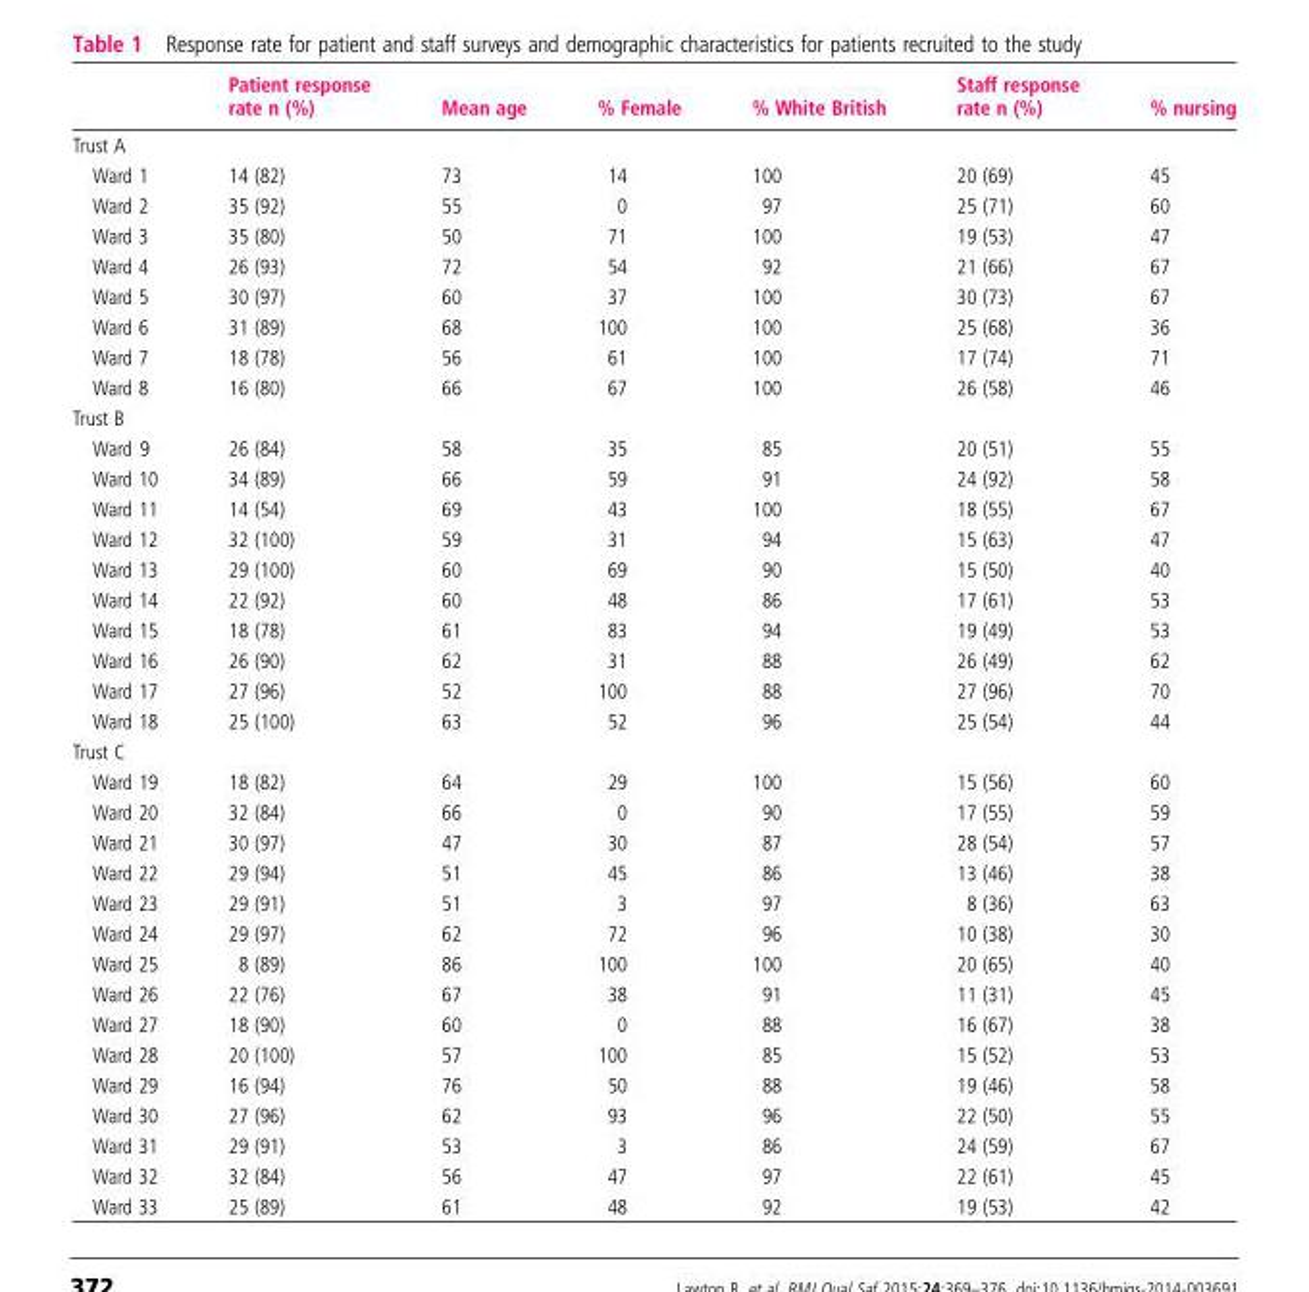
<table><thead><tr><td></td><td>Patient response rate n (%)</td><td>Mean age</td><td>% Female</td><td>% White British</td><td>Staff response rate n (%)</td><td>% nursing</td></tr></thead><tbody><tr><td colspan="7">Trust A</td></tr><tr><td>Ward 1</td><td>14 (82)</td><td>73</td><td>14</td><td>100</td><td>20 (69)</td><td>45</td></tr><tr><td>Ward 2</td><td>35 (92)</td><td>55</td><td>0</td><td>97</td><td>25 (71)</td><td>60</td></tr><tr><td>Ward 3</td><td>35 (80)</td><td>50</td><td>71</td><td>100</td><td>19 (53)</td><td>47</td></tr><tr><td>Ward 4</td><td>26 (93)</td><td>72</td><td>54</td><td>92</td><td>21 (66)</td><td>67</td></tr><tr><td>Ward 5</td><td>30 (97)</td><td>60</td><td>37</td><td>100</td><td>30 (73)</td><td>67</td></tr><tr><td>Ward 6</td><td>31 (89)</td><td>68</td><td>100</td><td>100</td><td>25 (68)</td><td>36</td></tr><tr><td>Ward 7</td><td>18 (78)</td><td>56</td><td>61</td><td>100</td><td>17 (74)</td><td>71</td></tr><tr><td>Ward 8</td><td>16 (80)</td><td>66</td><td>67</td><td>100</td><td>26 (58)</td><td>46</td></tr><tr><td colspan="7">Trust B</td></tr><tr><td>Ward 9</td><td>26 (84)</td><td>58</td><td>35</td><td>85</td><td>20 (51)</td><td>55</td></tr><tr><td>Ward 10</td><td>34 (89)</td><td>66</td><td>59</td><td>91</td><td>24 (92)</td><td>58</td></tr><tr><td>Ward 11</td><td>14 (54)</td><td>69</td><td>43</td><td>100</td><td>18 (55)</td><td>67</td></tr><tr><td>Ward 12</td><td>32 (100)</td><td>59</td><td>31</td><td>94</td><td>15 (63)</td><td>47</td></tr><tr><td>Ward 13</td><td>29 (100)</td><td>60</td><td>69</td><td>90</td><td>15 (50)</td><td>40</td></tr><tr><td>Ward 14</td><td>22 (92)</td><td>60</td><td>48</td><td>86</td><td>17 (61)</td><td>53</td></tr><tr><td>Ward 15</td><td>18 (78)</td><td>61</td><td>83</td><td>94</td><td>19 (49)</td><td>53</td></tr><tr><td>Ward 16</td><td>26 (90)</td><td>62</td><td>31</td><td>88</td><td>26 (49)</td><td>62</td></tr><tr><td>Ward 17</td><td>27 (96)</td><td>52</td><td>100</td><td>88</td><td>27 (96)</td><td>70</td></tr><tr><td>Ward 18</td><td>25 (100)</td><td>63</td><td>52</td><td>96</td><td>25 (54)</td><td>44</td></tr><tr><td colspan="7">Trust C</td></tr><tr><td>Ward 19</td><td>18 (82)</td><td>64</td><td>29</td><td>100</td><td>15 (56)</td><td>60</td></tr><tr><td>Ward 20</td><td>32 (84)</td><td>66</td><td>0</td><td>90</td><td>17 (55)</td><td>59</td></tr><tr><td>Ward 21</td><td>30 (97)</td><td>47</td><td>30</td><td>87</td><td>28 (54)</td><td>57</td></tr><tr><td>Ward 22</td><td>29 (94)</td><td>51</td><td>45</td><td>86</td><td>13 (46)</td><td>38</td></tr><tr><td>Ward 23</td><td>29 (91)</td><td>51</td><td>3</td><td>97</td><td>8 (36)</td><td>63</td></tr><tr><td>Ward 24</td><td>29 (97)</td><td>62</td><td>72</td><td>96</td><td>10 (38)</td><td>30</td></tr><tr><td>Ward 25</td><td>8 (89)</td><td>86</td><td>100</td><td>100</td><td>20 (65)</td><td>40</td></tr><tr><td>Ward 26</td><td>22 (76)</td><td>67</td><td>38</td><td>91</td><td>11 (31)</td><td>45</td></tr><tr><td>Ward 27</td><td>18 (90)</td><td>60</td><td>0</td><td>88</td><td>16 (67)</td><td>38</td></tr><tr><td>Ward 28</td><td>20 (100)</td><td>57</td><td>100</td><td>85</td><td>15 (52)</td><td>53</td></tr><tr><td>Ward 29</td><td>16 (94)</td><td>76</td><td>50</td><td>88</td><td>19 (46)</td><td>58</td></tr><tr><td>Ward 30</td><td>27 (96)</td><td>62</td><td>93</td><td>96</td><td>22 (50)</td><td>55</td></tr><tr><td>Ward 31</td><td>29 (91)</td><td>53</td><td>3</td><td>86</td><td>24 (59)</td><td>67</td></tr><tr><td>Ward 32</td><td>32 (84)</td><td>56</td><td>47</td><td>97</td><td>22 (61)</td><td>45</td></tr><tr><td>Ward 33</td><td>25 (89)</td><td>61</td><td>48</td><td>92</td><td>19 (53)</td><td>42</td></tr></tbody></table>